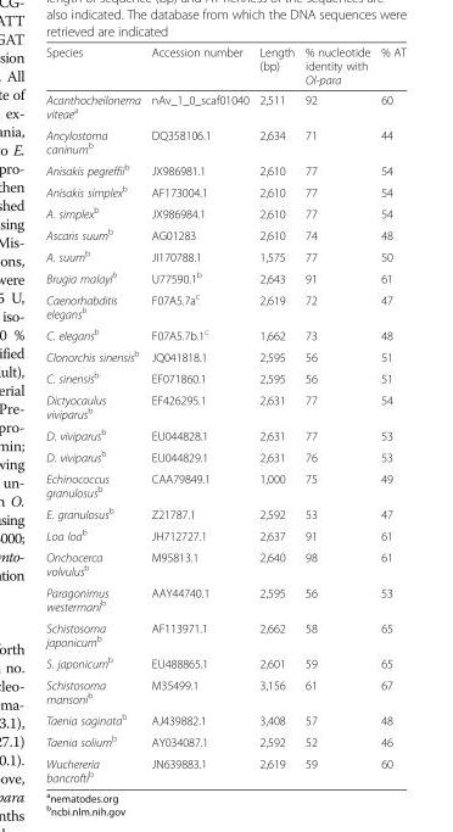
<table><thead><tr><td>Species</td><td>Accession number</td><td>Length (bp)</td><td>% nucleotide identity with Ol-para</td><td>% AT</td></tr></thead><tbody><tr><td>Acanthocheilonema viteae<sup>a</sup></td><td>nAv_1_0_scaf01040</td><td>2,511</td><td>92</td><td>60</td></tr><tr><td>Ancylostoma caninum<sup>b</sup></td><td>DQ358106.1</td><td>2,634</td><td>71</td><td>44</td></tr><tr><td>Anisakis pegreffii<sup>b</sup></td><td>JX986981.1</td><td>2,610</td><td>77</td><td>54</td></tr><tr><td>Anisakis simplex<sup>b</sup></td><td>AF173004.1</td><td>2,610</td><td>77</td><td>54</td></tr><tr><td>A. simplex<sup>b</sup></td><td>JX986984.1</td><td>2,610</td><td>77</td><td>54</td></tr><tr><td>Ascaris suum<sup>b</sup></td><td>AG01283</td><td>2,610</td><td>74</td><td>48</td></tr><tr><td>A. suum<sup>b</sup></td><td>JI170788.1</td><td>1,575</td><td>77</td><td>50</td></tr><tr><td>Brugia malayi<sup>b</sup></td><td>U77590.1<sup>b</sup></td><td>2,643</td><td>91</td><td>61</td></tr><tr><td>Caenorhabditis elegans<sup>b</sup></td><td>F07A5.7a<sup>c</sup></td><td>2,619</td><td>72</td><td>47</td></tr><tr><td>C. elegans<sup>b</sup></td><td>F07A5.7b.1<sup>c</sup></td><td>1,662</td><td>73</td><td>48</td></tr><tr><td>Clonorchis sinensis<sup>b</sup></td><td>JQ041818.1</td><td>2,595</td><td>56</td><td>51</td></tr><tr><td>C. sinensis<sup>b</sup></td><td>EF071860.1</td><td>2,595</td><td>56</td><td>51</td></tr><tr><td>Dictyocaulus viviparus<sup>b</sup></td><td>EF426295.1</td><td>2,631</td><td>77</td><td>54</td></tr><tr><td>D. viviparus<sup>b</sup></td><td>EU044828.1</td><td>2,631</td><td>77</td><td>53</td></tr><tr><td>D. viviparus<sup>b</sup></td><td>EU044829.1</td><td>2,631</td><td>76</td><td>53</td></tr><tr><td>Echinococcus granulosus<sup>b</sup></td><td>CAA79849.1</td><td>1,000</td><td>75</td><td>49</td></tr><tr><td>E. granulosus<sup>b</sup></td><td>Z21787.1</td><td>2,592</td><td>53</td><td>47</td></tr><tr><td>Loa loa<sup>b</sup></td><td>JH712727.1</td><td>2,637</td><td>91</td><td>61</td></tr><tr><td>Onchocerca volvulus<sup>b</sup></td><td>M95813.1</td><td>2,640</td><td>98</td><td>61</td></tr><tr><td>Paragonimus westermani<sup>b</sup></td><td>AAY44740.1</td><td>2,595</td><td>56</td><td>53</td></tr><tr><td>Schistosoma japonicum<sup>b</sup></td><td>AF113971.1</td><td>2,662</td><td>58</td><td>65</td></tr><tr><td>S. japonicum<sup>b</sup></td><td>EU488865.1</td><td>2,601</td><td>59</td><td>65</td></tr><tr><td>Schistosoma mansoni<sup>b</sup></td><td>M35499.1</td><td>3,156</td><td>61</td><td>67</td></tr><tr><td>Taenia saginata<sup>b</sup></td><td>AJ439882.1</td><td>3,408</td><td>57</td><td>48</td></tr><tr><td>Taenia solium<sup>b</sup></td><td>AY034087.1</td><td>2,592</td><td>52</td><td>46</td></tr><tr><td>Wuchereria bancrofti<sup>b</sup></td><td>JN639883.1</td><td>2,619</td><td>59</td><td>60</td></tr></tbody></table>